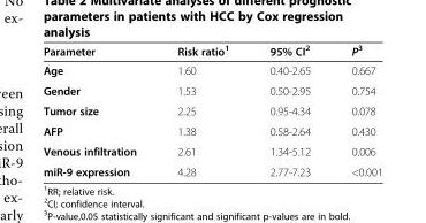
<table><thead><tr><td>Parameter</td><td>Risk ratio<sup>1</sup></td><td>95% CI<sup>2</sup></td><td>P<sup>3</sup></td></tr></thead><tbody><tr><td>Age</td><td>1.60</td><td>0.40-2.65</td><td>0.667</td></tr><tr><td>Gender</td><td>1.53</td><td>0.50-2.95</td><td>0.754</td></tr><tr><td>Tumor size</td><td>2.25</td><td>0.95-4.34</td><td>0.078</td></tr><tr><td>AFP</td><td>1.38</td><td>0.58-2.64</td><td>0.430</td></tr><tr><td>Venous infiltration</td><td>2.61</td><td>1.34-5.12</td><td>0.006</td></tr><tr><td>miR-9 expression</td><td>4.28</td><td>2.77-7.23</td><td>&lt;0.001</td></tr></tbody></table>